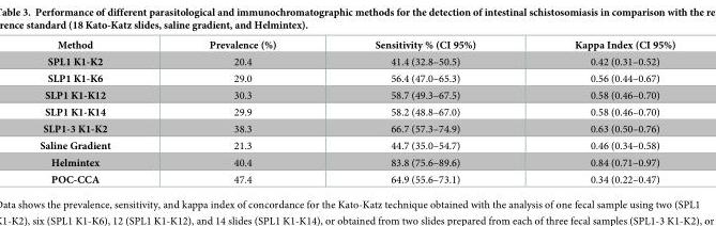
<table><thead><tr><td>Method</td><td>Prevalence (%)</td><td>Sensitivity % (CI 95%)</td><td>Kappa Index (CI 95%)</td></tr></thead><tbody><tr><td>SPL1 K1-K2</td><td>20.4</td><td>41.4 (32.8–50.5)</td><td>0.42 (0.31–0.52)</td></tr><tr><td>SLP1 K1-K6</td><td>29.0</td><td>56.4 (47.0–65.3)</td><td>0.56 (0.44–0.67)</td></tr><tr><td>SLP1 K1-K12</td><td>30.3</td><td>58.7 (49.3–67.5)</td><td>0.58 (0.46–0.70)</td></tr><tr><td>SLP1 K1-K14</td><td>29.9</td><td>58.2 (48.8–67.0)</td><td>0.58 (0.46–0.70)</td></tr><tr><td>SLP1-3 K1-K2</td><td>38.3</td><td>66.7 (57.3–74.9)</td><td>0.63 (0.50–0.76)</td></tr><tr><td>Saline Gradient</td><td>21.3</td><td>44.7 (35.0–54.7)</td><td>0.46 (0.34–0.58)</td></tr><tr><td>Helmintex</td><td>40.4</td><td>83.8 (75.6–89.6)</td><td>0.84 (0.71–0.97)</td></tr><tr><td>POC-CCA</td><td>47.4</td><td>64.9 (55.6–73.1)</td><td>0.34 (0.22–0.47)</td></tr></tbody></table>